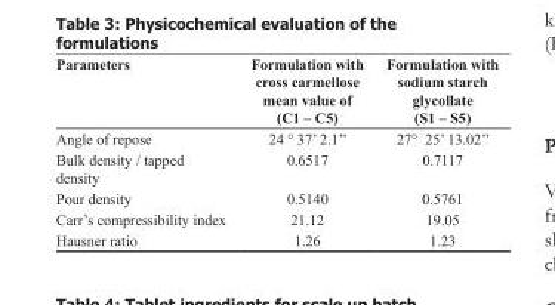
<table><thead><tr><td>Parameters</td><td>Formulation with cross carmellose mean value of (C1 – C5)</td><td>Formulation with sodium starch glycollate (S1 – S5)</td></tr></thead><tbody><tr><td>Angle of repose</td><td>24 ° 37’ 2.1’’</td><td>27° 25’ 13.02’’</td></tr><tr><td>Bulk density / tapped density</td><td>0.6517</td><td>0.7117</td></tr><tr><td>Pour density</td><td>0.5140</td><td>0.5761</td></tr><tr><td>Carr’s compressibility index</td><td>21.12</td><td>19.05</td></tr><tr><td>Hausner ratio</td><td>1.26</td><td>1.23</td></tr></tbody></table>